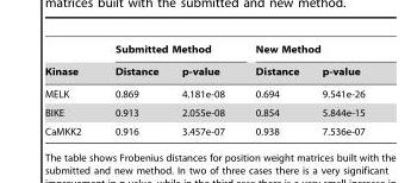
<table><thead><tr><td rowspan="2">Kinase</td><td colspan="2">Submitted Method</td><td colspan="2">New Method</td></tr><tr><td>Distance</td><td>p-value</td><td>Distance</td><td>p-value</td></tr></thead><tbody><tr><td>MELK</td><td>0.869</td><td>4.181e-08</td><td>0.694</td><td>9.541e-26</td></tr><tr><td>BIKE</td><td>0.913</td><td>2.055e-08</td><td>0.854</td><td>5.844e-15</td></tr><tr><td>CaMKK2</td><td>0.916</td><td>3.457e-07</td><td>0.938</td><td>7.536e-07</td></tr></tbody></table>